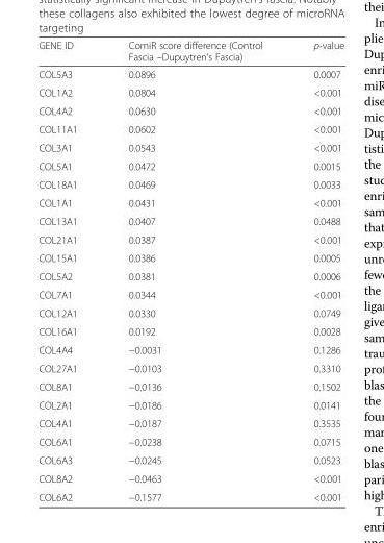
<table><thead><tr><td>GENE ID</td><td>ComiR score difference (Control Fascia –Dupuytren’s Fascia)</td><td>p-value</td></tr></thead><tbody><tr><td>COL5A3</td><td>0.0896</td><td>0.0007</td></tr><tr><td>COL1A2</td><td>0.0804</td><td>&lt;0.001</td></tr><tr><td>COL4A2</td><td>0.0630</td><td>&lt;0.001</td></tr><tr><td>COL11A1</td><td>0.0602</td><td>&lt;0.001</td></tr><tr><td>COL3A1</td><td>0.0543</td><td>&lt;0.001</td></tr><tr><td>COL5A1</td><td>0.0472</td><td>0.0015</td></tr><tr><td>COL18A1</td><td>0.0469</td><td>0.0033</td></tr><tr><td>COL1A1</td><td>0.0431</td><td>&lt;0.001</td></tr><tr><td>COL13A1</td><td>0.0407</td><td>0.0488</td></tr><tr><td>COL21A1</td><td>0.0387</td><td>&lt;0.001</td></tr><tr><td>COL15A1</td><td>0.0386</td><td>0.0005</td></tr><tr><td>COL5A2</td><td>0.0381</td><td>0.0006</td></tr><tr><td>COL7A1</td><td>0.0344</td><td>&lt;0.001</td></tr><tr><td>COL12A1</td><td>0.0330</td><td>0.0749</td></tr><tr><td>COL16A1</td><td>0.0192</td><td>0.0028</td></tr><tr><td>COL4A4</td><td>−0.0031</td><td>0.1286</td></tr><tr><td>COL27A1</td><td>−0.0103</td><td>0.3310</td></tr><tr><td>COL8A1</td><td>−0.0136</td><td>0.1502</td></tr><tr><td>COL2A1</td><td>−0.0186</td><td>0.0141</td></tr><tr><td>COL4A1</td><td>−0.0187</td><td>0.3535</td></tr><tr><td>COL6A1</td><td>−0.0238</td><td>0.0715</td></tr><tr><td>COL6A3</td><td>−0.0245</td><td>0.0523</td></tr><tr><td>COL8A2</td><td>−0.0463</td><td>&lt;0.001</td></tr><tr><td>COL6A2</td><td>−0.1577</td><td>&lt;0.001</td></tr></tbody></table>